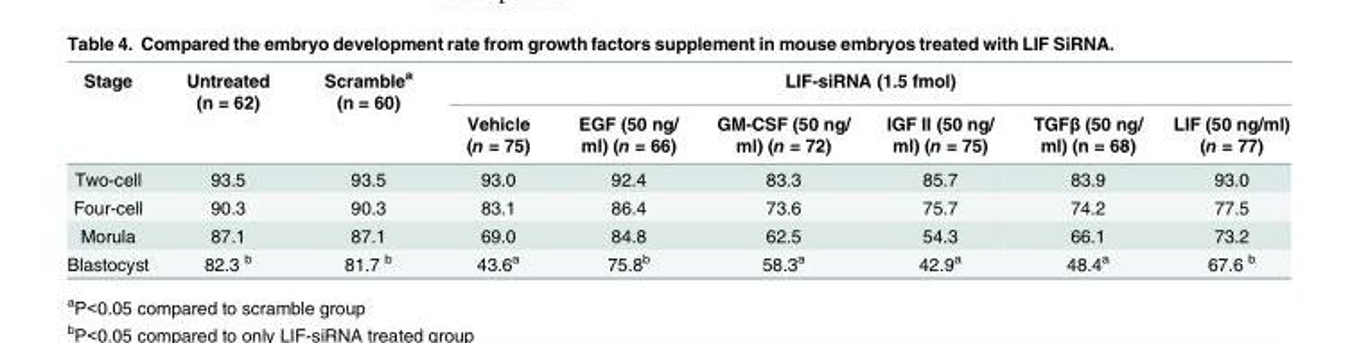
<table><thead><tr><td rowspan="2">Stage</td><td rowspan="2">Untreated (n = 62)</td><td rowspan="2">Scramble<sup>a</sup> (n = 60)</td><td colspan="6">LIF-siRNA (1.5 fmol)</td></tr><tr><td>Vehicle (n = 75)</td><td>EGF (50 ng/ ml) (n = 66)</td><td>GM-CSF (50 ng/ ml) (n = 72)</td><td>IGF II (50 ng/ ml) (n = 75)</td><td>TGFβ (50 ng/ ml) (n = 68)</td><td>LIF (50 ng/ml) (n = 77)</td></tr></thead><tbody><tr><td>Two-cell</td><td>93.5</td><td>93.5</td><td>93.0</td><td>92.4</td><td>83.3</td><td>85.7</td><td>83.9</td><td>93.0</td></tr><tr><td>Four-cell</td><td>90.3</td><td>90.3</td><td>83.1</td><td>86.4</td><td>73.6</td><td>75.7</td><td>74.2</td><td>77.5</td></tr><tr><td>Morula</td><td>87.1</td><td>87.1</td><td>69.0</td><td>84.8</td><td>62.5</td><td>54.3</td><td>66.1</td><td>73.2</td></tr><tr><td>Blastocyst</td><td>82.3 <sup>b</sup></td><td>81.7 <sup>b</sup></td><td>43.6<sup>a</sup></td><td>75.8<sup>b</sup></td><td>58.3<sup>a</sup></td><td>42.9<sup>a</sup></td><td>48.4<sup>a</sup></td><td>67.6 <sup>b</sup></td></tr></tbody></table>